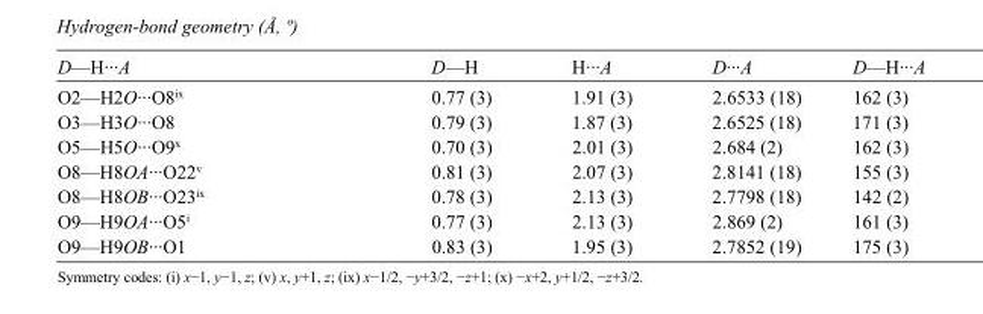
<table><tbody><tr><td>D—H···A</td><td>D—H</td><td>H···A</td><td>D···A</td><td>D—H···A</td></tr><tr><td>O2—H2O···O8<sup>ix</sup></td><td>0.77 (3)</td><td>1.91 (3)</td><td>2.6533 (18)</td><td>162 (3)</td></tr><tr><td>O3—H3O···O8</td><td>0.79 (3)</td><td>1.87 (3)</td><td>2.6525 (18)</td><td>171 (3)</td></tr><tr><td>O5—H5O···O9<sup>x</sup></td><td>0.70 (3)</td><td>2.01 (3)</td><td>2.684 (2)</td><td>162 (3)</td></tr><tr><td>O8—H8OA···O22<sup>v</sup></td><td>0.81 (3)</td><td>2.07 (3)</td><td>2.8141 (18)</td><td>155 (3)</td></tr><tr><td>O8—H8OB···O23<sup>ix</sup></td><td>0.78 (3)</td><td>2.13 (3)</td><td>2.7798 (18)</td><td>142 (2)</td></tr><tr><td>O9—H9OA···O5<sup>i</sup></td><td>0.77 (3)</td><td>2.13 (3)</td><td>2.869 (2)</td><td>161 (3)</td></tr><tr><td>O9—H9OB···O1</td><td>0.83 (3)</td><td>1.95 (3)</td><td>2.7852 (19)</td><td>175 (3)</td></tr></tbody></table>